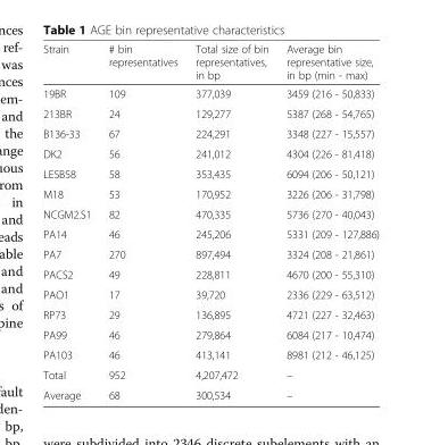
<table><thead><tr><td>Strain</td><td># bin representatives</td><td>Total size of bin representatives, in bp</td><td>Average bin representative size, in bp (min - max)</td></tr></thead><tbody><tr><td>19BR</td><td>109</td><td>377,039</td><td>3459 (216 - 50,833)</td></tr><tr><td>213BR</td><td>24</td><td>129,277</td><td>5387 (268 - 54,765)</td></tr><tr><td>B136-33</td><td>67</td><td>224,291</td><td>3348 (227 - 15,557)</td></tr><tr><td>DK2</td><td>56</td><td>241,012</td><td>4304 (226 - 81,418)</td></tr><tr><td>LESB58</td><td>58</td><td>353,435</td><td>6094 (206 - 50,121)</td></tr><tr><td>M18</td><td>53</td><td>170,952</td><td>3226 (206 - 31,798)</td></tr><tr><td>NCGM2.S1</td><td>82</td><td>470,335</td><td>5736 (270 - 40,043)</td></tr><tr><td>PA14</td><td>46</td><td>245,206</td><td>5331 (209 - 127,886)</td></tr><tr><td>PA7</td><td>270</td><td>897,494</td><td>3324 (208 - 21,861)</td></tr><tr><td>PACS2</td><td>49</td><td>228,811</td><td>4670 (200 - 55,310)</td></tr><tr><td>PAO1</td><td>17</td><td>39,720</td><td>2336 (229 - 63,512)</td></tr><tr><td>RP73</td><td>29</td><td>136,895</td><td>4721 (227 - 32,463)</td></tr><tr><td>PA99</td><td>46</td><td>279,864</td><td>6084 (217 - 10,474)</td></tr><tr><td>PA103</td><td>46</td><td>413,141</td><td>8981 (212 - 46,125)</td></tr><tr><td>Total</td><td>952</td><td>4,207,472</td><td>–</td></tr><tr><td>Average</td><td>68</td><td>300,534</td><td>–</td></tr></tbody></table>